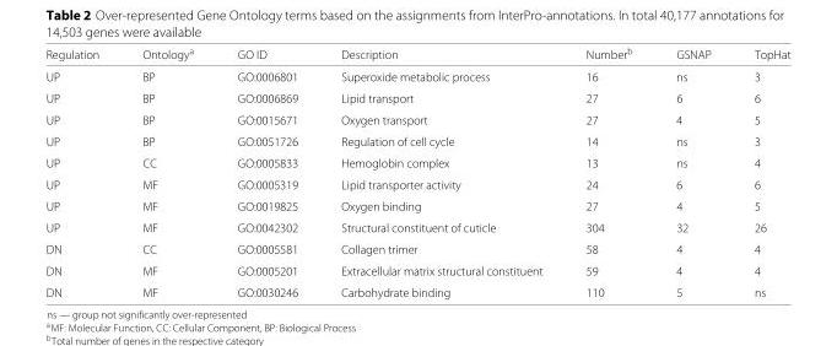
<table><thead><tr><td>Regulation</td><td>Ontology<sup>a</sup></td><td>GO ID</td><td>Description</td><td>Number<sup>b</sup></td><td>GSNAP</td><td>TopHat</td></tr></thead><tbody><tr><td>UP</td><td>BP</td><td>GO:0006801</td><td>Superoxide metabolic process</td><td>16</td><td>ns</td><td>3</td></tr><tr><td>UP</td><td>BP</td><td>GO:0006869</td><td>Lipid transport</td><td>27</td><td>6</td><td>6</td></tr><tr><td>UP</td><td>BP</td><td>GO:0015671</td><td>Oxygen transport</td><td>27</td><td>4</td><td>5</td></tr><tr><td>UP</td><td>BP</td><td>GO:0051726</td><td>Regulation of cell cycle</td><td>14</td><td>ns</td><td>3</td></tr><tr><td>UP</td><td>CC</td><td>GO:0005833</td><td>Hemoglobin complex</td><td>13</td><td>ns</td><td>4</td></tr><tr><td>UP</td><td>MF</td><td>GO:0005319</td><td>Lipid transporter activity</td><td>24</td><td>6</td><td>6</td></tr><tr><td>UP</td><td>MF</td><td>GO:0019825</td><td>Oxygen binding</td><td>27</td><td>4</td><td>5</td></tr><tr><td>UP</td><td>MF</td><td>GO:0042302</td><td>Structural constituent of cuticle</td><td>304</td><td>32</td><td>26</td></tr><tr><td>DN</td><td>CC</td><td>GO:0005581</td><td>Collagen trimer</td><td>58</td><td>4</td><td>4</td></tr><tr><td>DN</td><td>MF</td><td>GO:0005201</td><td>Extracellular matrix structural constituent</td><td>59</td><td>4</td><td>4</td></tr><tr><td>DN</td><td>MF</td><td>GO:0030246</td><td>Carbohydrate binding</td><td>110</td><td>5</td><td>ns</td></tr></tbody></table>